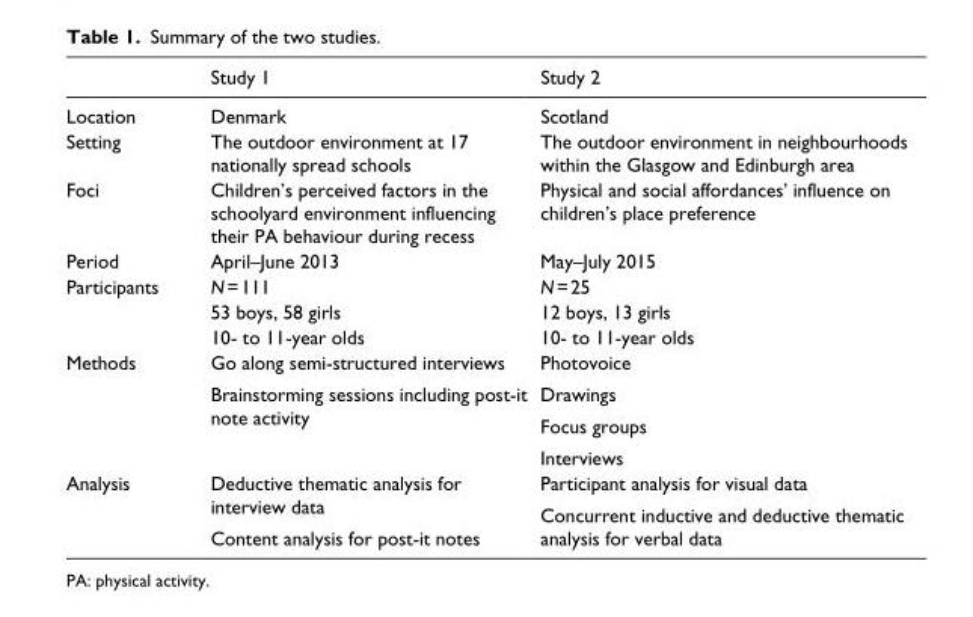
<table><thead><tr><td></td><td>Study 1</td><td>Study 2</td></tr></thead><tbody><tr><td>Location</td><td>Denmark</td><td>Scotland</td></tr><tr><td>Setting</td><td>The outdoor environment at 17 nationally spread schools</td><td>The outdoor environment in neighbourhoods within the Glasgow and Edinburgh area</td></tr><tr><td>Foci</td><td>Children’s perceived factors in the schoolyard environment influencing their PA behaviour during recess</td><td>Physical and social affordances’ influence on children’s place preference</td></tr><tr><td>Period</td><td>April–June 2013</td><td>May–July 2015</td></tr><tr><td rowspan="3">Participants</td><td>N = 111</td><td>N = 25</td></tr><tr><td>53 boys, 58 girls</td><td>12 boys, 13 girls</td></tr><tr><td>10- to 11-year olds</td><td>10- to 11-year olds</td></tr><tr><td>Methods</td><td>Go along semi-structured interviews Brainstorming sessions including post-it note activity</td><td>Photovoice Drawings Focus groups Interviews</td></tr><tr><td>Analysis</td><td>Deductive thematic analysis for interview data Content analysis for post-it notes</td><td>Participant analysis for visual data Concurrent inductive and deductive thematic analysis for verbal data</td></tr></tbody></table>